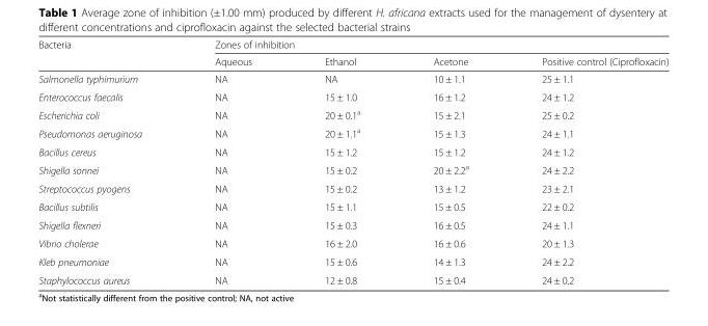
<table><thead><tr><td rowspan="2">Bacteria</td><td colspan="4">Zones of inhibition</td></tr><tr><td>Aqueous</td><td>Ethanol</td><td>Acetone</td><td>Positive control (Ciprofloxacin)</td></tr></thead><tbody><tr><td>Salmonella typhimurium</td><td>NA</td><td>NA</td><td>10 ± 1.1</td><td>25 ± 1.1</td></tr><tr><td>Enterococcus faecalis</td><td>NA</td><td>15 ± 1.0</td><td>16 ± 1.2</td><td>24 ± 1.2</td></tr><tr><td>Escherichia coli</td><td>NA</td><td>20 ± 0.1<sup>a</sup></td><td>15 ± 2.1</td><td>25 ± 0.2</td></tr><tr><td>Pseudomonas aeruginosa</td><td>NA</td><td>20 ± 1.1<sup>a</sup></td><td>15 ± 1.3</td><td>24 ± 1.1</td></tr><tr><td>Bacillus cereus</td><td>NA</td><td>15 ± 1.2</td><td>15 ± 1.2</td><td>24 ± 1.2</td></tr><tr><td>Shigella sonnei</td><td>NA</td><td>15 ± 0.2</td><td>20 ± 2.2<sup>a</sup></td><td>24 ± 2.2</td></tr><tr><td>Streptococcus pyogens</td><td>NA</td><td>15 ± 0.2</td><td>13 ± 1.2</td><td>23 ± 2.1</td></tr><tr><td>Bacillus subtilis</td><td>NA</td><td>15 ± 1.1</td><td>15 ± 0.5</td><td>22 ± 0.2</td></tr><tr><td>Shigella flexneri</td><td>NA</td><td>15 ± 0.3</td><td>16 ± 0.5</td><td>24 ± 1.1</td></tr><tr><td>Vibrio cholerae</td><td>NA</td><td>16 ± 2.0</td><td>16 ± 0.6</td><td>20 ± 1.3</td></tr><tr><td>Kleb pneumoniae</td><td>NA</td><td>15 ± 0.6</td><td>14 ± 1.3</td><td>24 ± 2.2</td></tr><tr><td>Staphylococcus aureus</td><td>NA</td><td>12 ± 0.8</td><td>15 ± 0.4</td><td>24 ± 0.2</td></tr></tbody></table>